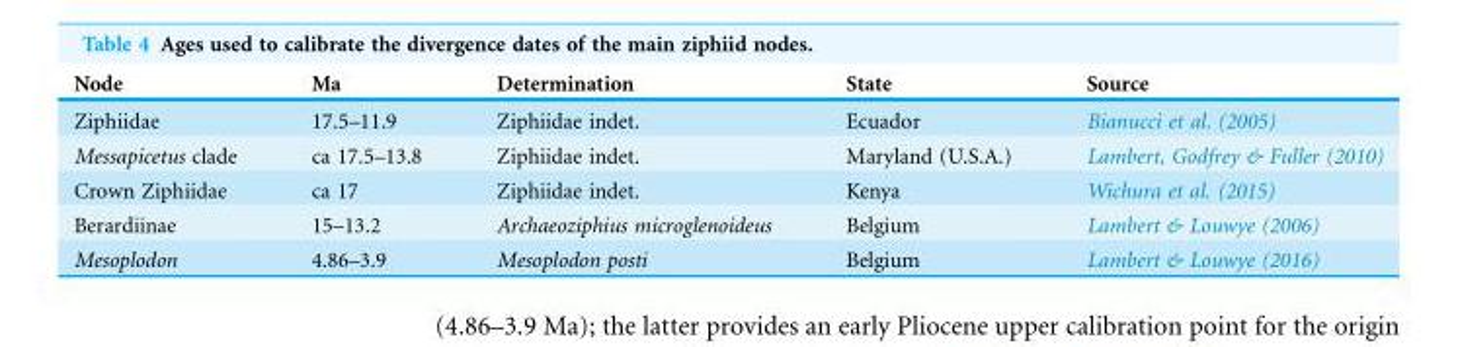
<table><thead><tr><td>Node</td><td>Ma</td><td>Determination</td><td>State</td><td>Source</td></tr></thead><tbody><tr><td>Ziphiidae</td><td>17.5–11.9</td><td>Ziphiidae indet.</td><td>Ecuador</td><td>Bianucci et al. (2005)</td></tr><tr><td>Messapicetus clade</td><td>ca 17.5–13.8</td><td>Ziphiidae indet.</td><td>Maryland (U.S.A.)</td><td>Lambert, Godfrey &amp; Fuller (2010)</td></tr><tr><td>Crown Ziphiidae</td><td>ca 17</td><td>Ziphiidae indet.</td><td>Kenya</td><td>Wichura et al. (2015)</td></tr><tr><td>Berardiinae</td><td>15–13.2</td><td>Archaeoziphius microglenoideus</td><td>Belgium</td><td>Lambert &amp; Louwye (2006)</td></tr><tr><td>Mesoplodon</td><td>4.86–3.9</td><td>Mesoplodon posti</td><td>Belgium</td><td>Lambert &amp; Louwye (2016)</td></tr></tbody></table>